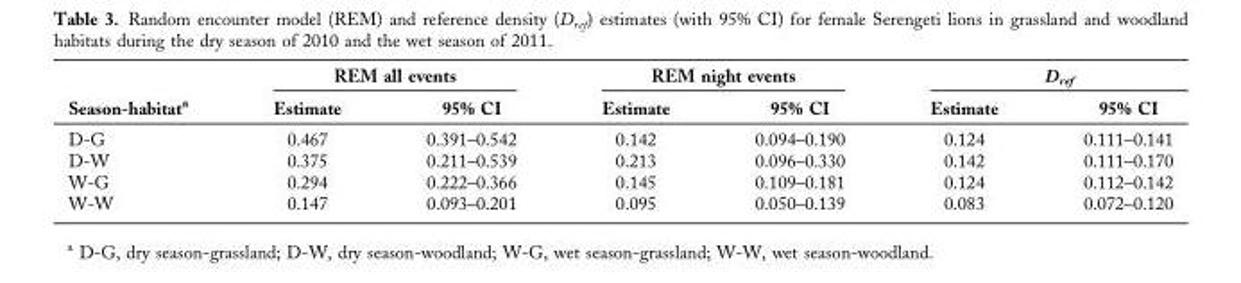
<table><thead><tr><td rowspan="2">Season-habitat<sup>a</sup></td><td colspan="2">REM all events</td><td colspan="2">REM night events</td><td colspan="2">D<sub>ref</sub></td></tr><tr><td>Estimate</td><td>95% CI</td><td>Estimate</td><td>95% CI</td><td>Estimate</td><td>95% CI</td></tr></thead><tbody><tr><td>D-G</td><td>0.467</td><td>0.391–0.542</td><td>0.142</td><td>0.094–0.190</td><td>0.124</td><td>0.111–0.141</td></tr><tr><td>D-W</td><td>0.375</td><td>0.211–0.539</td><td>0.213</td><td>0.096–0.330</td><td>0.142</td><td>0.111–0.170</td></tr><tr><td>W-G</td><td>0.294</td><td>0.222–0.366</td><td>0.145</td><td>0.109–0.181</td><td>0.124</td><td>0.112–0.142</td></tr><tr><td>W-W</td><td>0.147</td><td>0.093–0.201</td><td>0.095</td><td>0.050–0.139</td><td>0.083</td><td>0.072–0.120</td></tr></tbody></table>